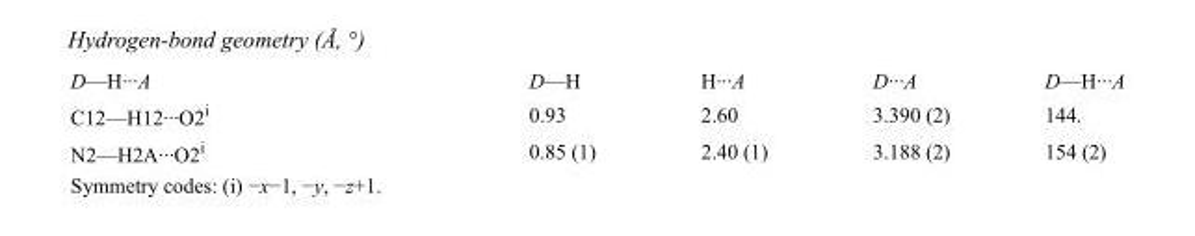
<table><tbody><tr><td>D—H···A</td><td>D—H</td><td>H···A</td><td>D···A</td><td>D—H···A</td></tr><tr><td>C12—H12···O2<sup>i</sup></td><td>0.93</td><td>2.60</td><td>3.390 (2)</td><td>144.</td></tr><tr><td>N2—H2A···O2<sup>i</sup></td><td>0.85 (1)</td><td>2.40 (1)</td><td>3.188 (2)</td><td>154 (2)</td></tr></tbody></table>